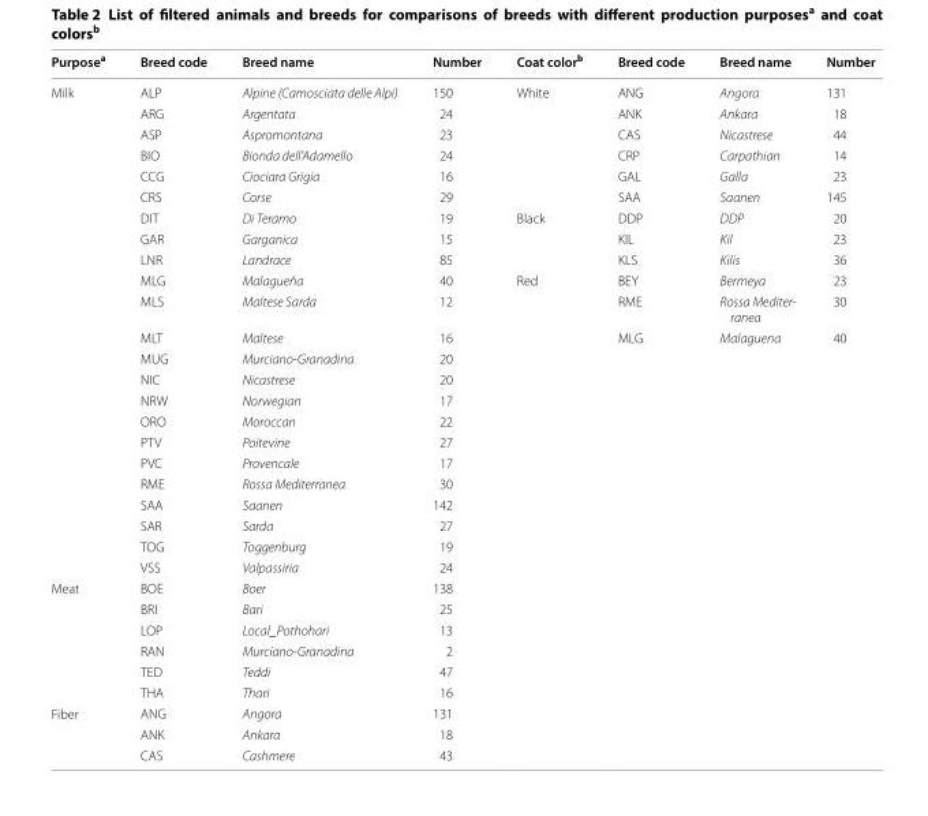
<table><thead><tr><td>Purpose<sup>a</sup></td><td>Breed code</td><td>Breed name</td><td>Number</td><td>Coat color<sup>b</sup></td><td>Breed code</td><td>Breed name</td><td>Number</td></tr></thead><tbody><tr><td rowspan="23">Milk</td><td>ALP</td><td>Alpine (Camosciata delle Alpi)</td><td>150</td><td rowspan="6">White</td><td>ANG</td><td>Angora</td><td>131</td></tr><tr><td>ARG</td><td>Argentata</td><td>24</td><td>ANK</td><td>Ankara</td><td>18</td></tr><tr><td>ASP</td><td>Aspromontana</td><td>23</td><td>CAS</td><td>Nicastrese</td><td>44</td></tr><tr><td>BIO</td><td>Bionda dell’Adamello</td><td>24</td><td>CRP</td><td>Carpathian</td><td>14</td></tr><tr><td>CCG</td><td>Ciociara Grigia</td><td>16</td><td>GAL</td><td>Galla</td><td>23</td></tr><tr><td>CRS</td><td>Corse</td><td>29</td><td>SAA</td><td>Saanen</td><td>145</td></tr><tr><td>DIT</td><td>Di Teramo</td><td>19</td><td rowspan="3">Black</td><td>DDP</td><td>DDP</td><td>20</td></tr><tr><td>GAR</td><td>Garganica</td><td>15</td><td>KIL</td><td>Kil</td><td>23</td></tr><tr><td>LNR</td><td>Landrace</td><td>85</td><td>KLS</td><td>Kilis</td><td>36</td></tr><tr><td>MLG</td><td>Malagueña</td><td>40</td><td rowspan="3">Red</td><td>BEY</td><td>Bermeya</td><td>23</td></tr><tr><td>MLS</td><td>Maltese Sarda</td><td>12</td><td>RME</td><td>Rossa Mediter- ranea</td><td>30</td></tr><tr><td>MLT</td><td>Maltese</td><td>16</td><td>MLG</td><td>Malaguena</td><td>40</td></tr><tr><td>MUG</td><td>Murciano‑Granadina</td><td>20</td><td></td><td></td><td></td><td></td></tr><tr><td>NIC</td><td>Nicastrese</td><td>20</td><td></td><td></td><td></td><td></td></tr><tr><td>NRW</td><td>Norwegian</td><td>17</td><td></td><td></td><td></td><td></td></tr><tr><td>ORO</td><td>Moroccan</td><td>22</td><td></td><td></td><td></td><td></td></tr><tr><td>PTV</td><td>Poitevine</td><td>27</td><td></td><td></td><td></td><td></td></tr><tr><td>PVC</td><td>Provencale</td><td>17</td><td></td><td></td><td></td><td></td></tr><tr><td>RME</td><td>Rossa Mediterranea</td><td>30</td><td></td><td></td><td></td><td></td></tr><tr><td>SAA</td><td>Saanen</td><td>142</td><td></td><td></td><td></td><td></td></tr><tr><td>SAR</td><td>Sarda</td><td>27</td><td></td><td></td><td></td><td></td></tr><tr><td>TOG</td><td>Toggenburg</td><td>19</td><td></td><td></td><td></td><td></td></tr><tr><td>VSS</td><td>Valpassiria</td><td>24</td><td></td><td></td><td></td><td></td></tr><tr><td rowspan="6">Meat</td><td>BOE</td><td>Boer</td><td>138</td><td></td><td></td><td></td><td></td></tr><tr><td>BRI</td><td>Bari</td><td>25</td><td></td><td></td><td></td><td></td></tr><tr><td>LOP</td><td>Local_Pothohari</td><td>13</td><td></td><td></td><td></td><td></td></tr><tr><td>RAN</td><td>Murciano‑Granadina</td><td>2</td><td></td><td></td><td></td><td></td></tr><tr><td>TED</td><td>Teddi</td><td>47</td><td></td><td></td><td></td><td></td></tr><tr><td>THA</td><td>Thari</td><td>16</td><td></td><td></td><td></td><td></td></tr><tr><td rowspan="3">Fiber</td><td>ANG</td><td>Angora</td><td>131</td><td></td><td></td><td></td><td></td></tr><tr><td>ANK</td><td>Ankara</td><td>18</td><td></td><td></td><td></td><td></td></tr><tr><td>CAS</td><td>Cashmere</td><td>43</td><td></td><td></td><td></td><td></td></tr></tbody></table>